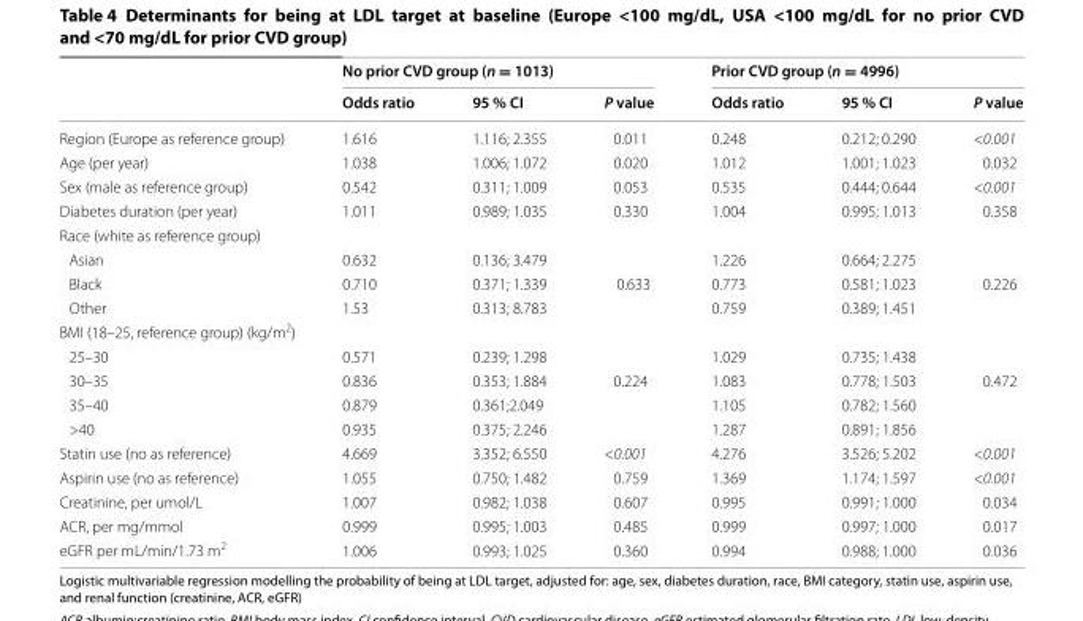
<table><thead><tr><td rowspan="2"></td><td colspan="3">No prior CVD group (n = 1013)</td><td colspan="3">Prior CVD group (n = 4996)</td></tr><tr><td>Odds ratio</td><td>95 % CI</td><td>P value</td><td>Odds ratio</td><td>95 % CI</td><td>P value</td></tr></thead><tbody><tr><td>Region (Europe as reference group)</td><td>1.616</td><td>1.116; 2.355</td><td>0.011</td><td>0.248</td><td>0.212; 0.290</td><td>&lt;0.001</td></tr><tr><td>Age (per year)</td><td>1.038</td><td>1.006; 1.072</td><td>0.020</td><td>1.012</td><td>1.001; 1.023</td><td>0.032</td></tr><tr><td>Sex (male as reference group)</td><td>0.542</td><td>0.311; 1.009</td><td>0.053</td><td>0.535</td><td>0.444; 0.644</td><td>&lt;0.001</td></tr><tr><td>Diabetes duration (per year)</td><td>1.011</td><td>0.989; 1.035</td><td>0.330</td><td>1.004</td><td>0.995; 1.013</td><td>0.358</td></tr><tr><td colspan="7">Race (white as reference group)</td></tr><tr><td>Asian</td><td>0.632</td><td>0.136; 3.479</td><td></td><td>1.226</td><td>0.664; 2.275</td><td></td></tr><tr><td>Black</td><td>0.710</td><td>0.371; 1.339</td><td>0.633</td><td>0.773</td><td>0.581; 1.023</td><td>0.226</td></tr><tr><td>Other</td><td>1.53</td><td>0.313; 8.783</td><td></td><td>0.759</td><td>0.389; 1.451</td><td></td></tr><tr><td colspan="7">BMI (18–25, reference group) (kg/m<sup>2</sup>)</td></tr><tr><td>25–30</td><td>0.571</td><td>0.239; 1.298</td><td></td><td>1.029</td><td>0.735; 1.438</td><td></td></tr><tr><td>30–35</td><td>0.836</td><td>0.353; 1.884</td><td>0.224</td><td>1.083</td><td>0.778; 1.503</td><td>0.472</td></tr><tr><td>35–40</td><td>0.879</td><td>0.361;2.049</td><td></td><td>1.105</td><td>0.782; 1.560</td><td></td></tr><tr><td>&gt;40</td><td>0.935</td><td>0.375; 2.246</td><td></td><td>1.287</td><td>0.891; 1.856</td><td></td></tr><tr><td>Statin use (no as reference)</td><td>4.669</td><td>3.352; 6.550</td><td>&lt;0.001</td><td>4.276</td><td>3.526; 5.202</td><td>&lt;0.001</td></tr><tr><td>Aspirin use (no as reference)</td><td>1.055</td><td>0.750; 1.482</td><td>0.759</td><td>1.369</td><td>1.174; 1.597</td><td>&lt;0.001</td></tr><tr><td>Creatinine, per umol/L</td><td>1.007</td><td>0.982; 1.038</td><td>0.607</td><td>0.995</td><td>0.991; 1.000</td><td>0.034</td></tr><tr><td>ACR, per mg/mmol</td><td>0.999</td><td>0.995; 1.003</td><td>0.485</td><td>0.999</td><td>0.997; 1.000</td><td>0.017</td></tr><tr><td>eGFR per mL/min/1.73 m<sup>2</sup></td><td>1.006</td><td>0.993; 1.025</td><td>0.360</td><td>0.994</td><td>0.988; 1.000</td><td>0.036</td></tr></tbody></table>